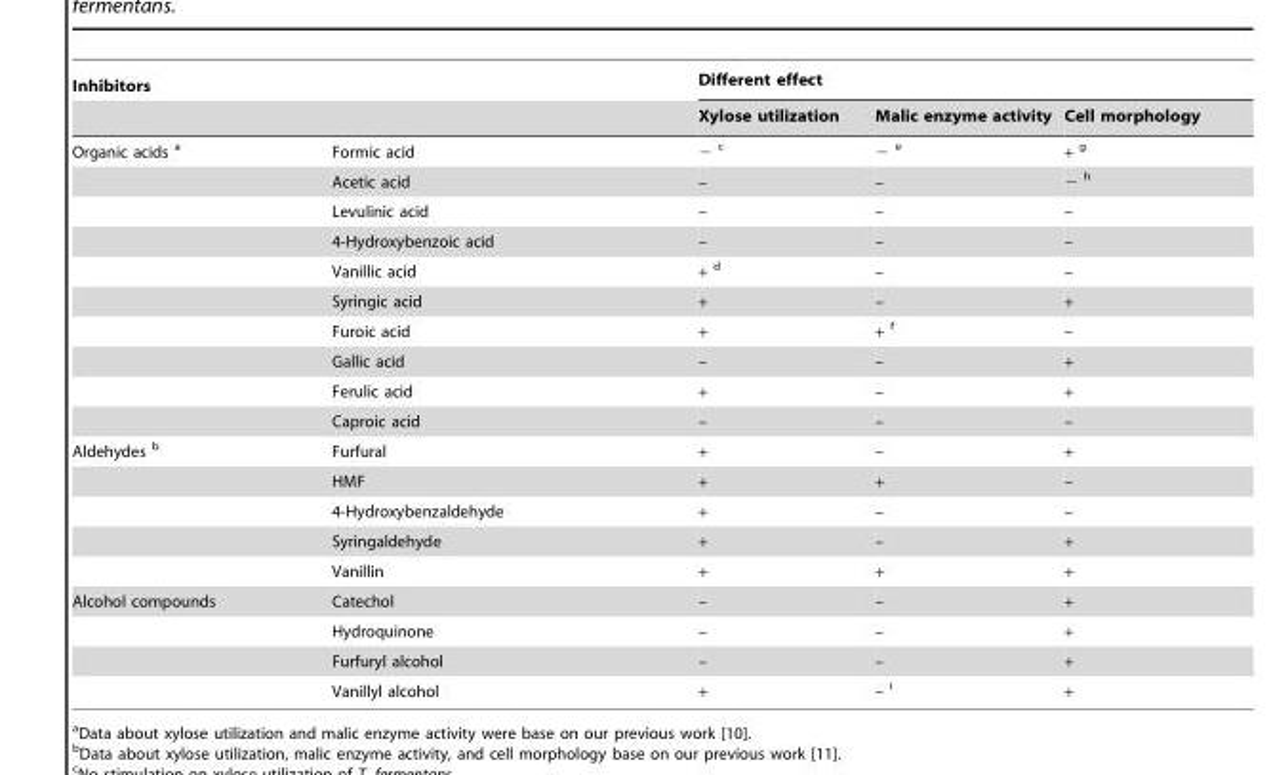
<table><thead><tr><td colspan="2">Inhibitors</td><td colspan="3">Different effect</td></tr><tr><td></td><td></td><td>Xylose utilization</td><td>Malic enzyme activity</td><td>Cell morphology</td></tr></thead><tbody><tr><td rowspan="10">Organic acids a</td><td>Formic acid</td><td>− c</td><td>− e</td><td>+ g</td></tr><tr><td>Acetic acid</td><td>–</td><td>–</td><td>− h</td></tr><tr><td>Levulinic acid</td><td>–</td><td>–</td><td>–</td></tr><tr><td>4-Hydroxybenzoic acid</td><td>–</td><td>–</td><td>–</td></tr><tr><td>Vanillic acid</td><td>+ d</td><td>–</td><td>–</td></tr><tr><td>Syringic acid</td><td>+</td><td>–</td><td>+</td></tr><tr><td>Furoic acid</td><td>+</td><td>+ f</td><td>–</td></tr><tr><td>Gallic acid</td><td>–</td><td>–</td><td>+</td></tr><tr><td>Ferulic acid</td><td>+</td><td>–</td><td>+</td></tr><tr><td>Caproic acid</td><td>–</td><td>–</td><td>–</td></tr><tr><td rowspan="5">Aldehydes b</td><td>Furfural</td><td>+</td><td>–</td><td>+</td></tr><tr><td>HMF</td><td>+</td><td>+</td><td>–</td></tr><tr><td>4-Hydroxybenzaldehyde</td><td>+</td><td>–</td><td>–</td></tr><tr><td>Syringaldehyde</td><td>+</td><td>–</td><td>+</td></tr><tr><td>Vanillin</td><td>+</td><td>+</td><td>+</td></tr><tr><td rowspan="4">Alcohol compounds</td><td>Catechol</td><td>–</td><td>–</td><td>+</td></tr><tr><td>Hydroquinone</td><td>–</td><td>–</td><td>+</td></tr><tr><td>Furfuryl alcohol</td><td>–</td><td>–</td><td>+</td></tr><tr><td>Vanillyl alcohol</td><td>+</td><td>– i</td><td>+</td></tr></tbody></table>